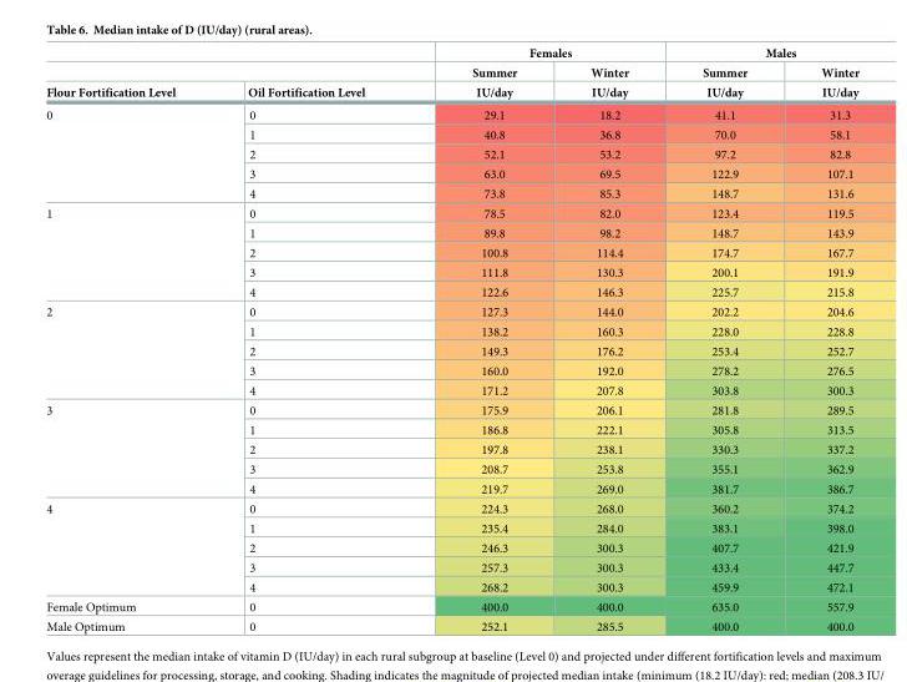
<table><thead><tr><td rowspan="3">Flour Fortification Level</td><td rowspan="3">Oil Fortification Level</td><td colspan="2">Females</td><td colspan="2">Males</td></tr><tr><td rowspan="2">Summer IU/day</td><td rowspan="2">Winter IU/day</td><td rowspan="2">Summer IU/day</td><td rowspan="2">Winter IU/day</td></tr><tr></tr></thead><tbody><tr><td rowspan="5">0</td><td>0</td><td>29.1</td><td>18.2</td><td>41.1</td><td>31.3</td></tr><tr><td>1</td><td>40.8</td><td>36.8</td><td>70.0</td><td>58.1</td></tr><tr><td>2</td><td>52.1</td><td>53.2</td><td>97.2</td><td>82.8</td></tr><tr><td>3</td><td>63.0</td><td>69.5</td><td>122.9</td><td>107.1</td></tr><tr><td>4</td><td>73.8</td><td>85.3</td><td>148.7</td><td>131.6</td></tr><tr><td rowspan="5">1</td><td>0</td><td>78.5</td><td>82.0</td><td>123.4</td><td>119.5</td></tr><tr><td>1</td><td>89.8</td><td>98.2</td><td>148.7</td><td>143.9</td></tr><tr><td>2</td><td>100.8</td><td>114.4</td><td>174.7</td><td>167.7</td></tr><tr><td>3</td><td>111.8</td><td>130.3</td><td>200.1</td><td>191.9</td></tr><tr><td>4</td><td>122.6</td><td>146.3</td><td>225.7</td><td>215.8</td></tr><tr><td rowspan="5">2</td><td>0</td><td>127.3</td><td>144.0</td><td>202.2</td><td>204.6</td></tr><tr><td>1</td><td>138.2</td><td>160.3</td><td>228.0</td><td>228.8</td></tr><tr><td>2</td><td>149.3</td><td>176.2</td><td>253.4</td><td>252.7</td></tr><tr><td>3</td><td>160.0</td><td>192.0</td><td>278.2</td><td>276.5</td></tr><tr><td>4</td><td>171.2</td><td>207.8</td><td>303.8</td><td>300.3</td></tr><tr><td rowspan="5">3</td><td>0</td><td>175.9</td><td>206.1</td><td>281.8</td><td>289.5</td></tr><tr><td>1</td><td>186.8</td><td>222.1</td><td>305.8</td><td>313.5</td></tr><tr><td>2</td><td>197.8</td><td>238.1</td><td>330.3</td><td>337.2</td></tr><tr><td>3</td><td>208.7</td><td>253.8</td><td>355.1</td><td>362.9</td></tr><tr><td>4</td><td>219.7</td><td>269.0</td><td>381.7</td><td>386.7</td></tr><tr><td rowspan="5">4</td><td>0</td><td>224.3</td><td>268.0</td><td>360.2</td><td>374.2</td></tr><tr><td>1</td><td>235.4</td><td>284.0</td><td>383.1</td><td>398.0</td></tr><tr><td>2</td><td>246.3</td><td>300.3</td><td>407.7</td><td>421.9</td></tr><tr><td>3</td><td>257.3</td><td>300.3</td><td>433.4</td><td>447.7</td></tr><tr><td>4</td><td>268.2</td><td>300.3</td><td>459.9</td><td>472.1</td></tr><tr><td>Female Optimum</td><td>0</td><td>400.0</td><td>400.0</td><td>635.0</td><td>557.9</td></tr><tr><td>Male Optimum</td><td>0</td><td>252.1</td><td>285.5</td><td>400.0</td><td>400.0</td></tr></tbody></table>